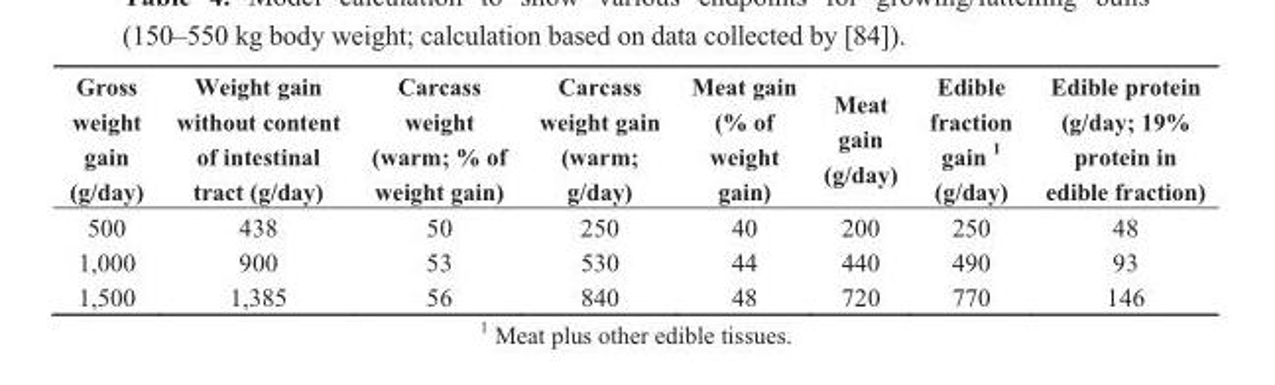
<table><thead><tr><td>Gross weight gain (g/day)</td><td>Weight gain without content of intestinal tract (g/day)</td><td>Carcass weight (warm; % of weight gain)</td><td>Carcass weight gain (warm; g/day)</td><td>Meat gain (% of weight gain)</td><td>Meat gain (g/day)</td><td>Edible fraction gain <sup>1</sup> (g/day)</td><td>Edible protein (g/day; 19% protein in edible fraction)</td></tr></thead><tbody><tr><td>500</td><td>438</td><td>50</td><td>250</td><td>40</td><td>200</td><td>250</td><td>48</td></tr><tr><td>1,000</td><td>900</td><td>53</td><td>530</td><td>44</td><td>440</td><td>490</td><td>93</td></tr><tr><td>1,500</td><td>1,385</td><td>56</td><td>840</td><td>48</td><td>720</td><td>770</td><td>146</td></tr></tbody></table>